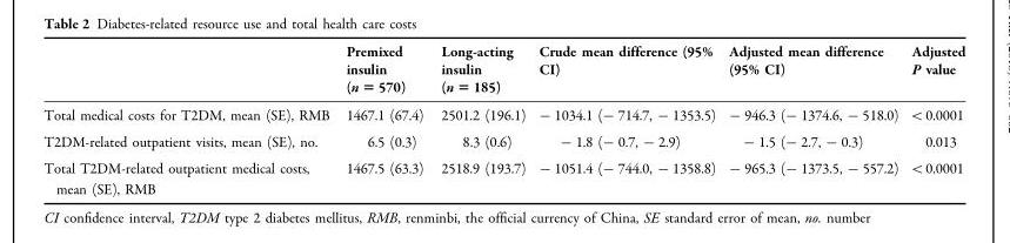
<table><thead><tr><td></td><td>Premixed insulin (n = 570)</td><td>Long-acting insulin (n = 185)</td><td>Crude mean difference (95% CI)</td><td>Adjusted mean difference (95% CI)</td><td>Adjusted P value</td></tr></thead><tbody><tr><td>Total medical costs for T2DM, mean (SE), RMB</td><td>1467.1 (67.4)</td><td>2501.2 (196.1)</td><td>- 1034.1 (- 714.7, - 1353.5)</td><td>- 946.3 (- 1374.6, - 518.0)</td><td>&lt;0.0001</td></tr><tr><td>T2DM-related outpatient visits, mean (SE), no.</td><td>6.5 (0.3)</td><td>8.3 (0.6)</td><td>- 1.8 (- 0.7, - 2.9)</td><td>- 1.5 (- 2.7, - 0.3)</td><td>0.013</td></tr><tr><td>Total T2DM-related outpatient medical costs, mean (SE), RMB</td><td>1467.5 (63.3)</td><td>2518.9 (193.7)</td><td>- 1051.4 (- 744.0, - 1358.8)</td><td>- 965.3 (- 1373.5, - 557.2)</td><td>&lt;0.0001</td></tr></tbody></table>